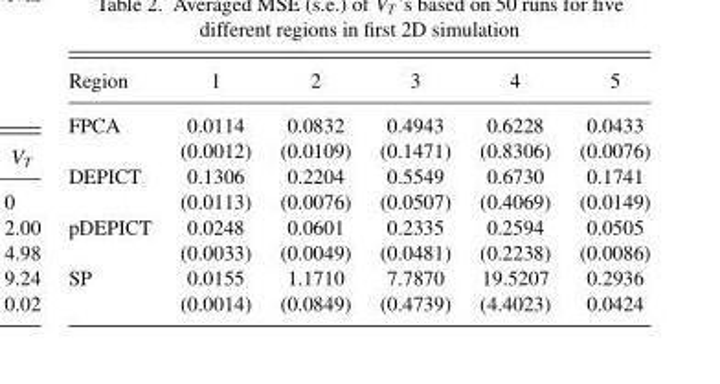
<table><thead><tr><td>Region</td><td>1</td><td>2</td><td>3</td><td>4</td><td>5</td></tr></thead><tbody><tr><td rowspan="2">FPCA</td><td>0.0114</td><td>0.0832</td><td>0.4943</td><td>0.6228</td><td>0.0433</td></tr><tr><td>(0.0012)</td><td>(0.0109)</td><td>(0.1471)</td><td>(0.8306)</td><td>(0.0076)</td></tr><tr><td rowspan="2">DEPICT</td><td>0.1306</td><td>0.2204</td><td>0.5549</td><td>0.6730</td><td>0.1741</td></tr><tr><td>(0.0113)</td><td>(0.0076)</td><td>(0.0507)</td><td>(0.4069)</td><td>(0.0149)</td></tr><tr><td rowspan="2">pDEPICT</td><td>0.0248</td><td>0.0601</td><td>0.2335</td><td>0.2594</td><td>0.0505</td></tr><tr><td>(0.0033)</td><td>(0.0049)</td><td>(0.0481)</td><td>(0.2238)</td><td>(0.0086)</td></tr><tr><td rowspan="2">SP</td><td>0.0155</td><td>1.1710</td><td>7.7870</td><td>19.5207</td><td>0.2936</td></tr><tr><td>(0.0014)</td><td>(0.0849)</td><td>(0.4739)</td><td>(4.4023)</td><td>0.0424</td></tr></tbody></table>